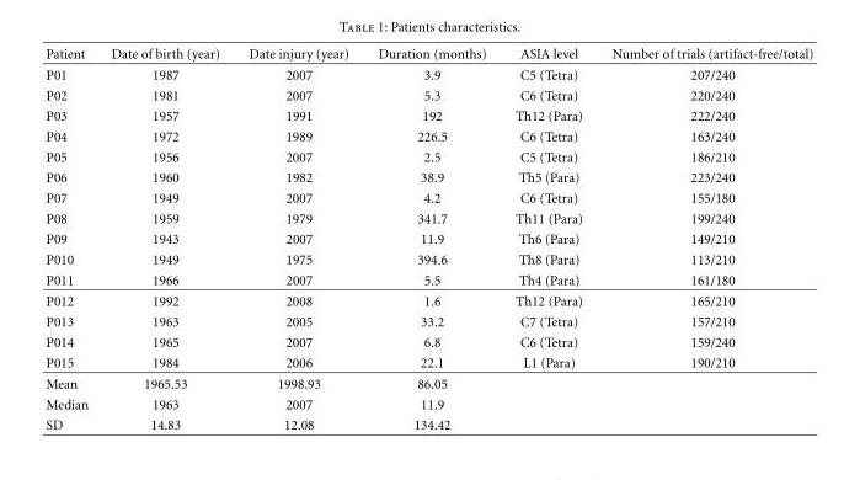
<table><thead><tr><td>Patient</td><td>Date of birth (year)</td><td>Date injury (year)</td><td>Duration (months)</td><td>ASIA level</td><td>Number of trials (artifact-free/total)</td></tr></thead><tbody><tr><td>P01</td><td>1987</td><td>2007</td><td>3.9</td><td>C5 (Tetra)</td><td>207/240</td></tr><tr><td>P02</td><td>1981</td><td>2007</td><td>5.3</td><td>C6 (Tetra)</td><td>220/240</td></tr><tr><td>P03</td><td>1957</td><td>1991</td><td>192</td><td>Th12 (Para)</td><td>222/240</td></tr><tr><td>P04</td><td>1972</td><td>1989</td><td>226.5</td><td>C6 (Tetra)</td><td>163/240</td></tr><tr><td>P05</td><td>1956</td><td>2007</td><td>2.5</td><td>C5 (Tetra)</td><td>186/210</td></tr><tr><td>P06</td><td>1960</td><td>1982</td><td>38.9</td><td>Th5 (Para)</td><td>223/240</td></tr><tr><td>P07</td><td>1949</td><td>2007</td><td>4.2</td><td>C6 (Tetra)</td><td>155/180</td></tr><tr><td>P08</td><td>1959</td><td>1979</td><td>341.7</td><td>Th11 (Para)</td><td>199/240</td></tr><tr><td>P09</td><td>1943</td><td>2007</td><td>11.9</td><td>Th6 (Para)</td><td>149/210</td></tr><tr><td>P010</td><td>1949</td><td>1975</td><td>394.6</td><td>Th8 (Para)</td><td>113/210</td></tr><tr><td>P011</td><td>1966</td><td>2007</td><td>5.5</td><td>Th4 (Para)</td><td>161/180</td></tr><tr><td>P012</td><td>1992</td><td>2008</td><td>1.6</td><td>Th12 (Para)</td><td>165/210</td></tr><tr><td>P013</td><td>1963</td><td>2005</td><td>33.2</td><td>C7 (Tetra)</td><td>157/210</td></tr><tr><td>P014</td><td>1965</td><td>2007</td><td>6.8</td><td>C6 (Tetra)</td><td>159/240</td></tr><tr><td>P015</td><td>1984</td><td>2006</td><td>22.1</td><td>L1 (Para)</td><td>190/210</td></tr><tr><td>Mean</td><td>1965.53</td><td>1998.93</td><td>86.05</td><td></td><td></td></tr><tr><td>Median</td><td>1963</td><td>2007</td><td>11.9</td><td></td><td></td></tr><tr><td>SD</td><td>14.83</td><td>12.08</td><td>134.42</td><td></td><td></td></tr></tbody></table>